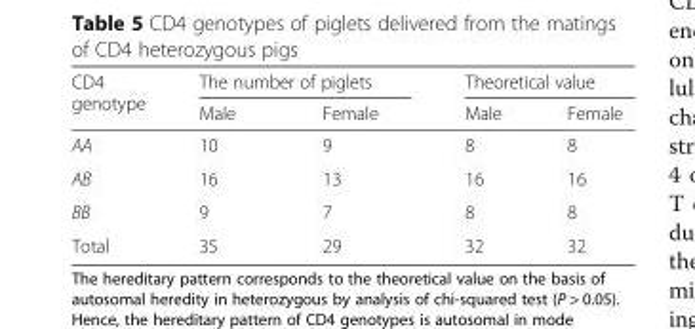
<table><thead><tr><td rowspan="2">CD4 genotype</td><td colspan="2">The number of piglets</td><td colspan="2">Theoretical value</td></tr><tr><td>Male</td><td>Female</td><td>Male</td><td>Female</td></tr></thead><tbody><tr><td>AA</td><td>10</td><td>9</td><td>8</td><td>8</td></tr><tr><td>AB</td><td>16</td><td>13</td><td>16</td><td>16</td></tr><tr><td>BB</td><td>9</td><td>7</td><td>8</td><td>8</td></tr><tr><td>Total</td><td>35</td><td>29</td><td>32</td><td>32</td></tr></tbody></table>